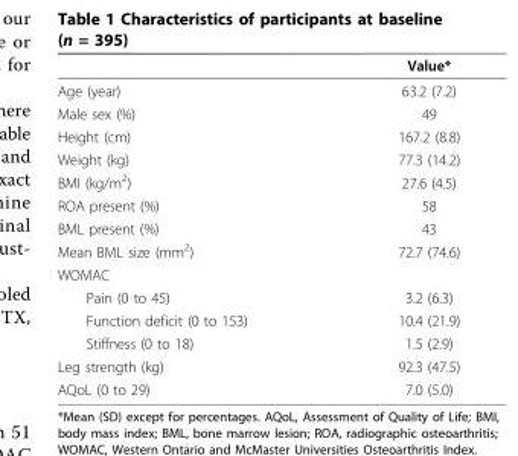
<table><thead><tr><td></td><td>Value*</td></tr></thead><tbody><tr><td>Age (year)</td><td>63.2 (7.2)</td></tr><tr><td>Male sex (%)</td><td>49</td></tr><tr><td>Height (cm)</td><td>167.2 (8.8)</td></tr><tr><td>Weight (kg)</td><td>77.3 (14.2)</td></tr><tr><td>BMI (kg/m<sup>2</sup>)</td><td>27.6 (4.5)</td></tr><tr><td>ROA present (%)</td><td>58</td></tr><tr><td>BML present (%)</td><td>43</td></tr><tr><td>Mean BML size (mm<sup>2</sup>)</td><td>72.7 (74.6)</td></tr><tr><td colspan="2">WOMAC</td></tr><tr><td>Pain (0 to 45)</td><td>3.2 (6.3)</td></tr><tr><td>Function deficit (0 to 153)</td><td>10.4 (21.9)</td></tr><tr><td>Stiffness (0 to 18)</td><td>1.5 (2.9)</td></tr><tr><td>Leg strength (kg)</td><td>92.3 (47.5)</td></tr><tr><td>AQoL (0 to 29)</td><td>7.0 (5.0)</td></tr></tbody></table>